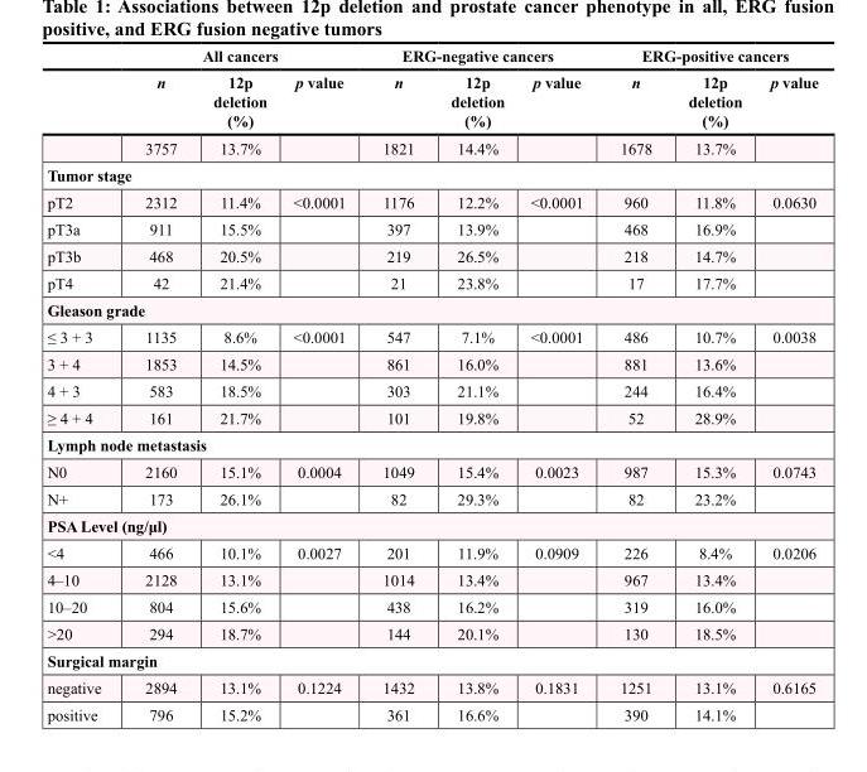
<table><thead><tr><td rowspan="2"></td><td colspan="3">All cancers</td><td colspan="3">ERG-negative cancers</td><td colspan="3">ERG-positive cancers</td></tr><tr><td>n</td><td>12p deletion (%)</td><td>p value</td><td>n</td><td>12p deletion (%)</td><td>p value</td><td>n</td><td>12p deletion (%)</td><td>p value</td></tr></thead><tbody><tr><td></td><td>3757</td><td>13.7%</td><td></td><td>1821</td><td>14.4%</td><td></td><td>1678</td><td>13.7%</td><td></td></tr><tr><td colspan="10">Tumor stage</td></tr><tr><td>pT2</td><td>2312</td><td>11.4%</td><td>&lt;0.0001</td><td>1176</td><td>12.2%</td><td>&lt;0.0001</td><td>960</td><td>11.8%</td><td>0.0630</td></tr><tr><td>pT3a</td><td>911</td><td>15.5%</td><td></td><td>397</td><td>13.9%</td><td></td><td>468</td><td>16.9%</td><td></td></tr><tr><td>pT3b</td><td>468</td><td>20.5%</td><td></td><td>219</td><td>26.5%</td><td></td><td>218</td><td>14.7%</td><td></td></tr><tr><td>pT4</td><td>42</td><td>21.4%</td><td></td><td>21</td><td>23.8%</td><td></td><td>17</td><td>17.7%</td><td></td></tr><tr><td colspan="10">Gleason grade</td></tr><tr><td>≤ 3 + 3</td><td>1135</td><td>8.6%</td><td>&lt;0.0001</td><td>547</td><td>7.1%</td><td>&lt;0.0001</td><td>486</td><td>10.7%</td><td>0.0038</td></tr><tr><td>3 + 4</td><td>1853</td><td>14.5%</td><td></td><td>861</td><td>16.0%</td><td></td><td>881</td><td>13.6%</td><td></td></tr><tr><td>4 + 3</td><td>583</td><td>18.5%</td><td></td><td>303</td><td>21.1%</td><td></td><td>244</td><td>16.4%</td><td></td></tr><tr><td>≥ 4 + 4</td><td>161</td><td>21.7%</td><td></td><td>101</td><td>19.8%</td><td></td><td>52</td><td>28.9%</td><td></td></tr><tr><td colspan="10">Lymph node metastasis</td></tr><tr><td>N0</td><td>2160</td><td>15.1%</td><td>0.0004</td><td>1049</td><td>15.4%</td><td>0.0023</td><td>987</td><td>15.3%</td><td>0.0743</td></tr><tr><td>N+</td><td>173</td><td>26.1%</td><td></td><td>82</td><td>29.3%</td><td></td><td>82</td><td>23.2%</td><td></td></tr><tr><td colspan="10">PSA Level (ng/μl)</td></tr><tr><td>&lt;4</td><td>466</td><td>10.1%</td><td>0.0027</td><td>201</td><td>11.9%</td><td>0.0909</td><td>226</td><td>8.4%</td><td>0.0206</td></tr><tr><td>4–10</td><td>2128</td><td>13.1%</td><td></td><td>1014</td><td>13.4%</td><td></td><td>967</td><td>13.4%</td><td></td></tr><tr><td>10–20</td><td>804</td><td>15.6%</td><td></td><td>438</td><td>16.2%</td><td></td><td>319</td><td>16.0%</td><td></td></tr><tr><td>&gt;20</td><td>294</td><td>18.7%</td><td></td><td>144</td><td>20.1%</td><td></td><td>130</td><td>18.5%</td><td></td></tr><tr><td colspan="10">Surgical margin</td></tr><tr><td>negative</td><td>2894</td><td>13.1%</td><td>0.1224</td><td>1432</td><td>13.8%</td><td>0.1831</td><td>1251</td><td>13.1%</td><td>0.6165</td></tr><tr><td>positive</td><td>796</td><td>15.2%</td><td></td><td>361</td><td>16.6%</td><td></td><td>390</td><td>14.1%</td><td></td></tr></tbody></table>